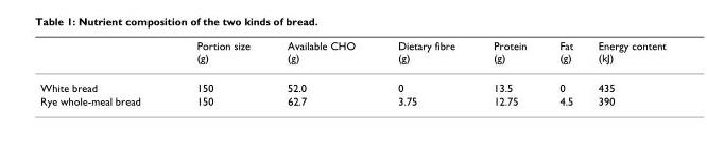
<table><thead><tr><td></td><td>Portion size (g)</td><td>Available CHO (g)</td><td>Dietary fibre (g)</td><td>Protein (g)</td><td>Fat (g)</td><td>Energy content (kJ)</td></tr></thead><tbody><tr><td>White bread</td><td>150</td><td>52.0</td><td>0</td><td>13.5</td><td>0</td><td>435</td></tr><tr><td>Rye whole-meal bread</td><td>150</td><td>62.7</td><td>3.75</td><td>12.75</td><td>4.5</td><td>390</td></tr></tbody></table>